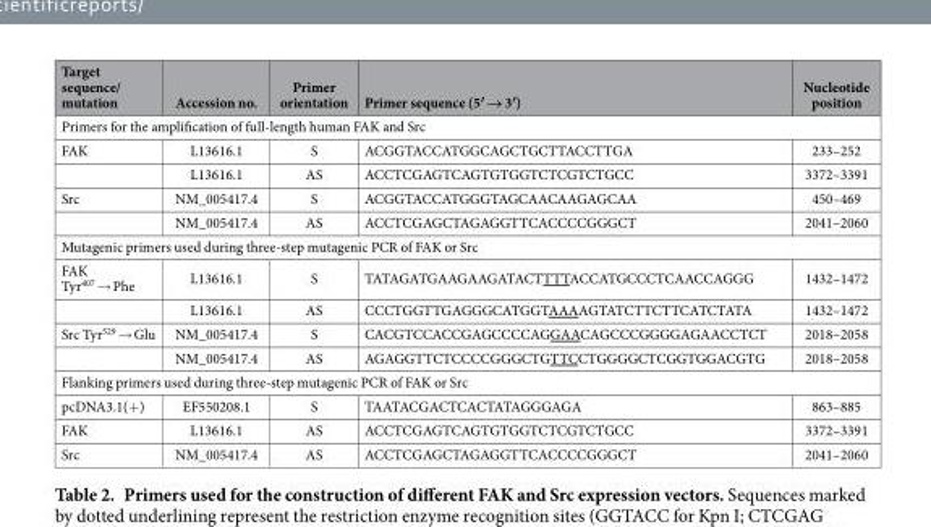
<table><thead><tr><td>Target sequence/ mutation</td><td>Accession no.</td><td>Primer orientation</td><td>Primer sequence (5′ → 3′)</td><td>Nucleotide position</td></tr></thead><tbody><tr><td colspan="5">Primers for the amplification of full-length human FAK and Src</td></tr><tr><td rowspan="2">FAK</td><td>L13616.1</td><td>S</td><td>ACGGTACCATGGCAGCTGCTTACCTTGA</td><td>233–252</td></tr><tr><td>L13616.1</td><td>AS</td><td>ACCTCGAGTCAGTGTGGTCTCGTCTGCC</td><td>3372–3391</td></tr><tr><td rowspan="2">Src</td><td>NM_005417.4</td><td>S</td><td>ACGGTACCATGGGTAGCAACAAGAGCAA</td><td>450–469</td></tr><tr><td>NM_005417.4</td><td>AS</td><td>ACCTCGAGCTAGAGGTTCACCCCGGGCT</td><td>2041–2060</td></tr><tr><td colspan="5">Mutagenic primers used during three-step mutagenic PCR of FAK or Src</td></tr><tr><td rowspan="2">FAK Tyr<sup>407</sup> → Phe</td><td>L13616.1</td><td>S</td><td>TATAGATGAAGAAGATACTTTTACCATGCCCTCAACCAGGG</td><td>1432–1472</td></tr><tr><td>L13616.1</td><td>AS</td><td>CCCTGGTTGAGGGCATGGTAAAAGTATCTTCTTCATCTATA</td><td>1432–1472</td></tr><tr><td rowspan="2">Src Tyr<sup>529</sup> → Glu</td><td>NM_005417.4</td><td>S</td><td>CACGTCCACCGAGCCCCAGGAACAGCCCGGGGAGAACCTCT</td><td>2018–2058</td></tr><tr><td>NM_005417.4</td><td>AS</td><td>AGAGGTTCTCCCCGGGCTGTTCCTGGGGCTCGGTGGACGTG</td><td>2018–2058</td></tr><tr><td colspan="5">Flanking primers used during three-step mutagenic PCR of FAK or Src</td></tr><tr><td>pcDNA3.1(+)</td><td>EF550208.1</td><td>S</td><td>TAATACGACTCACTATAGGGAGA</td><td>863–885</td></tr><tr><td>FAK</td><td>L13616.1</td><td>AS</td><td>ACCTCGAGTCAGTGTGGTCTCGTCTGCC</td><td>3372–3391</td></tr><tr><td>Src</td><td>NM_005417.4</td><td>AS</td><td>ACCTCGAGCTAGAGGTTCACCCCGGGCT</td><td>2041–2060</td></tr></tbody></table>